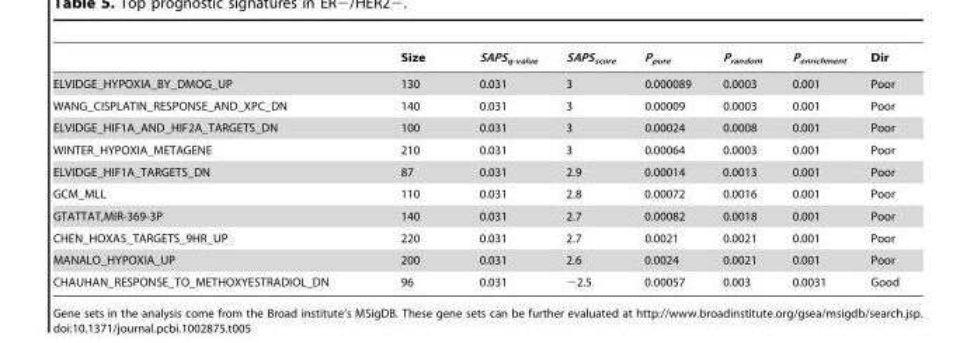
<table><thead><tr><td></td><td>Size</td><td>SAPS<sub>q-value</sub></td><td>SAPS<sub>score</sub></td><td>P<sub>pure</sub></td><td>P<sub>random</sub></td><td>P<sub>enrichment</sub></td><td>Dir</td></tr></thead><tbody><tr><td>ELVIDGE_HYPOXIA_BY_DMOG_UP</td><td>130</td><td>0.031</td><td>3</td><td>0.000089</td><td>0.0003</td><td>0.001</td><td>Poor</td></tr><tr><td>WANG_CISPLATIN_RESPONSE_AND_XPC_DN</td><td>140</td><td>0.031</td><td>3</td><td>0.00009</td><td>0.0003</td><td>0.001</td><td>Poor</td></tr><tr><td>ELVIDGE_HIF1A_AND_HIF2A_TARGETS_DN</td><td>100</td><td>0.031</td><td>3</td><td>0.00024</td><td>0.0008</td><td>0.001</td><td>Poor</td></tr><tr><td>WINTER_HYPOXIA_METAGENE</td><td>210</td><td>0.031</td><td>3</td><td>0.00064</td><td>0.0003</td><td>0.001</td><td>Poor</td></tr><tr><td>ELVIDGE_HIF1A_TARGETS_DN</td><td>87</td><td>0.031</td><td>2.9</td><td>0.00014</td><td>0.0013</td><td>0.001</td><td>Poor</td></tr><tr><td>GCM_MLL</td><td>110</td><td>0.031</td><td>2.8</td><td>0.00072</td><td>0.0016</td><td>0.001</td><td>Poor</td></tr><tr><td>GTATTAT,MIR-369-3P</td><td>140</td><td>0.031</td><td>2.7</td><td>0.00082</td><td>0.0018</td><td>0.001</td><td>Poor</td></tr><tr><td>CHEN_HOXA5_TARGETS_9HR_UP</td><td>220</td><td>0.031</td><td>2.7</td><td>0.0021</td><td>0.0021</td><td>0.001</td><td>Poor</td></tr><tr><td>MANALO_HYPOXIA_UP</td><td>200</td><td>0.031</td><td>2.6</td><td>0.0024</td><td>0.0021</td><td>0.001</td><td>Poor</td></tr><tr><td>CHAUHAN_RESPONSE_TO_METHOXYESTRADIOL_DN</td><td>96</td><td>0.031</td><td>−2.5</td><td>0.00057</td><td>0.003</td><td>0.0031</td><td>Good</td></tr></tbody></table>